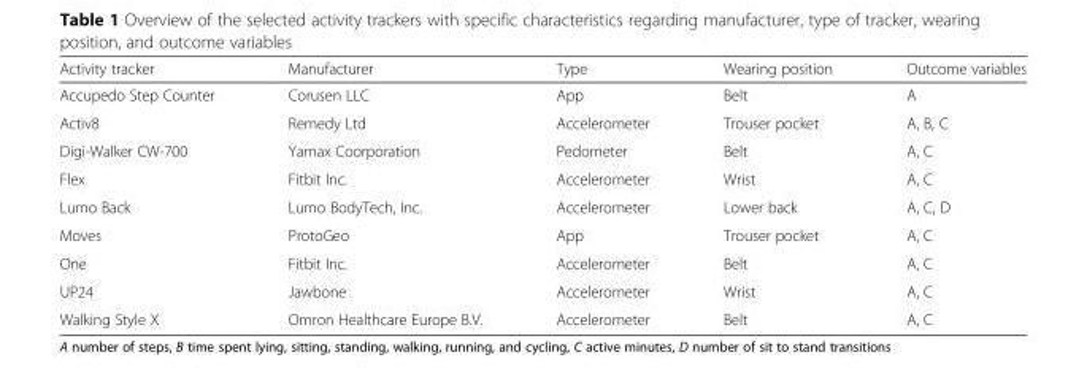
<table><thead><tr><td>Activity tracker</td><td>Manufacturer</td><td>Type</td><td>Wearing position</td><td>Outcome variables</td></tr></thead><tbody><tr><td>Accupedo Step Counter</td><td>Corusen LLC</td><td>App</td><td>Belt</td><td>A</td></tr><tr><td>Activ8</td><td>Remedy Ltd</td><td>Accelerometer</td><td>Trouser pocket</td><td>A, B, C</td></tr><tr><td>Digi-Walker CW-700</td><td>Yamax Coorporation</td><td>Pedometer</td><td>Belt</td><td>A, C</td></tr><tr><td>Flex</td><td>Fitbit Inc.</td><td>Accelerometer</td><td>Wrist</td><td>A, C</td></tr><tr><td>Lumo Back</td><td>Lumo BodyTech, Inc.</td><td>Accelerometer</td><td>Lower back</td><td>A, C, D</td></tr><tr><td>Moves</td><td>ProtoGeo</td><td>App</td><td>Trouser pocket</td><td>A, C</td></tr><tr><td>One</td><td>Fitbit Inc.</td><td>Accelerometer</td><td>Belt</td><td>A, C</td></tr><tr><td>UP24</td><td>Jawbone</td><td>Accelerometer</td><td>Wrist</td><td>A, C</td></tr><tr><td>Walking Style X</td><td>Omron Healthcare Europe B.V.</td><td>Accelerometer</td><td>Belt</td><td>A, C</td></tr></tbody></table>